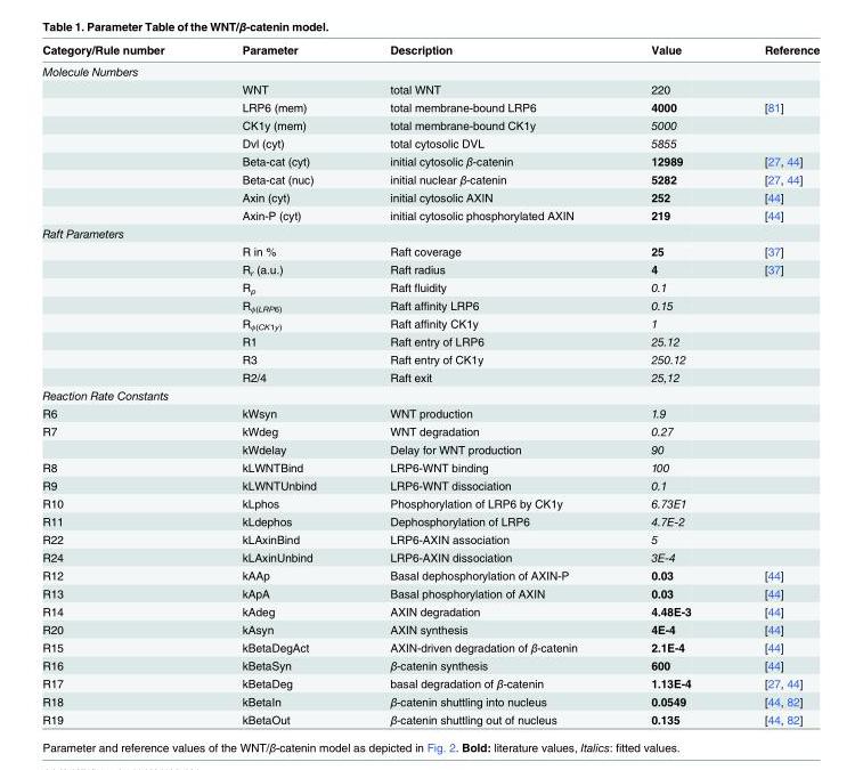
<table><thead><tr><td>Category/Rule number</td><td>Parameter</td><td>Description</td><td>Value</td><td>Reference</td></tr></thead><tbody><tr><td colspan="5">Molecule Numbers</td></tr><tr><td></td><td>WNT</td><td>total WNT</td><td>220</td><td></td></tr><tr><td></td><td>LRP6 (mem)</td><td>total membrane-bound LRP6</td><td>4000</td><td>[81]</td></tr><tr><td></td><td>CK1y (mem)</td><td>total membrane-bound CK1y</td><td>5000</td><td></td></tr><tr><td></td><td>Dvl (cyt)</td><td>total cytosolic DVL</td><td>5855</td><td></td></tr><tr><td></td><td>Beta-cat (cyt)</td><td>initial cytosolic β-catenin</td><td>12989</td><td>[27, 44]</td></tr><tr><td></td><td>Beta-cat (nuc)</td><td>initial nuclear β-catenin</td><td>5282</td><td>[27, 44]</td></tr><tr><td></td><td>Axin (cyt)</td><td>initial cytosolic AXIN</td><td>252</td><td>[44]</td></tr><tr><td></td><td>Axin-P (cyt)</td><td>initial cytosolic phosphorylated AXIN</td><td>219</td><td>[44]</td></tr><tr><td colspan="5">Raft Parameters</td></tr><tr><td></td><td>R in %</td><td>Raft coverage</td><td>25</td><td>[37]</td></tr><tr><td></td><td>R<sub>r</sub> (a.u.)</td><td>Raft radius</td><td>4</td><td>[37]</td></tr><tr><td></td><td>R<sub>ρ</sub></td><td>Raft fluidity</td><td>0.1</td><td></td></tr><tr><td></td><td>R<sub>ϕ(LRP6)</sub></td><td>Raft affinity LRP6</td><td>0.15</td><td></td></tr><tr><td></td><td>R<sub>ϕ(CK1y)</sub></td><td>Raft affinity CK1y</td><td>1</td><td></td></tr><tr><td></td><td>R1</td><td>Raft entry of LRP6</td><td>25.12</td><td></td></tr><tr><td></td><td>R3</td><td>Raft entry of CK1y</td><td>250.12</td><td></td></tr><tr><td></td><td>R2/4</td><td>Raft exit</td><td>25,12</td><td></td></tr><tr><td colspan="5">Reaction Rate Constants</td></tr><tr><td>R6</td><td>kWsyn</td><td>WNT production</td><td>1.9</td><td></td></tr><tr><td rowspan="2">R7</td><td>kWdeg</td><td>WNT degradation</td><td>0.27</td><td></td></tr><tr><td>kWdelay</td><td>Delay for WNT production</td><td>90</td><td></td></tr><tr><td>R8</td><td>kLWNTBind</td><td>LRP6-WNT binding</td><td>100</td><td></td></tr><tr><td>R9</td><td>kLWNTUnbind</td><td>LRP6-WNT dissociation</td><td>0.1</td><td></td></tr><tr><td>R10</td><td>kLphos</td><td>Phosphorylation of LRP6 by CK1y</td><td>6.73E1</td><td></td></tr><tr><td>R11</td><td>kLdephos</td><td>Dephosphorylation of LRP6</td><td>4.7E-2</td><td></td></tr><tr><td>R22</td><td>kLAxinBind</td><td>LRP6-AXIN association</td><td>5</td><td></td></tr><tr><td>R24</td><td>kLAxinUnbind</td><td>LRP6-AXIN dissociation</td><td>3E-4</td><td></td></tr><tr><td>R12</td><td>kAAp</td><td>Basal dephosphorylation of AXIN-P</td><td>0.03</td><td>[44]</td></tr><tr><td>R13</td><td>kApA</td><td>Basal phosphorylation of AXIN</td><td>0.03</td><td>[44]</td></tr><tr><td>R14</td><td>kAdeg</td><td>AXIN degradation</td><td>4.48E-3</td><td>[44]</td></tr><tr><td>R20</td><td>kAsyn</td><td>AXIN synthesis</td><td>4E-4</td><td>[44]</td></tr><tr><td>R15</td><td>kBetaDegAct</td><td>AXIN-driven degradation of β-catenin</td><td>2.1E-4</td><td>[44]</td></tr><tr><td>R16</td><td>kBetaSyn</td><td>β-catenin synthesis</td><td>600</td><td>[44]</td></tr><tr><td>R17</td><td>kBetaDeg</td><td>basal degradation of β-catenin</td><td>1.13E-4</td><td>[27, 44]</td></tr><tr><td>R18</td><td>kBetaIn</td><td>β-catenin shuttling into nucleus</td><td>0.0549</td><td>[44, 82]</td></tr><tr><td>R19</td><td>kBetaOut</td><td>β-catenin shuttling out of nucleus</td><td>0.135</td><td>[44, 82]</td></tr></tbody></table>